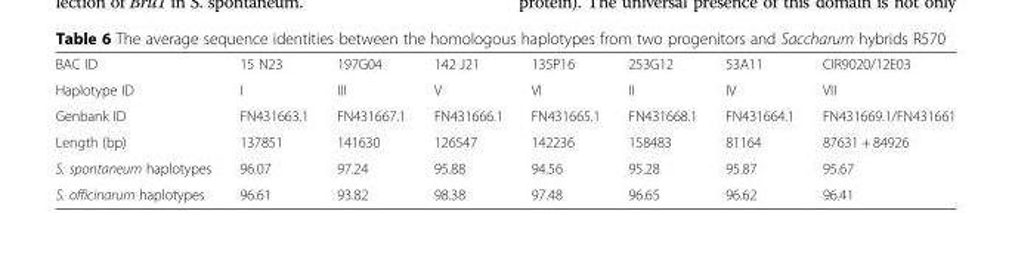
<table><tbody><tr><td>BAC ID</td><td>15 N23</td><td>197G04</td><td>142 J21</td><td>135P16</td><td>253G12</td><td>53A11</td><td>CIR9020/12E03</td></tr><tr><td>Haplotype ID</td><td>I</td><td>III</td><td>V</td><td>VI</td><td>II</td><td>IV</td><td>VII</td></tr><tr><td>Genbank ID</td><td>FN431663.1</td><td>FN431667.1</td><td>FN431666.1</td><td>FN431665.1</td><td>FN431668.1</td><td>FN431664.1</td><td>FN431669.1/FN431661</td></tr><tr><td>Length (bp)</td><td>137851</td><td>141630</td><td>126547</td><td>142236</td><td>158483</td><td>81164</td><td>87631 + 84926</td></tr><tr><td>S. spontaneum haplotypes</td><td>96.07</td><td>97.24</td><td>95.88</td><td>94.56</td><td>95.28</td><td>95.87</td><td>95.67</td></tr><tr><td>S. officinarum haplotypes</td><td>96.61</td><td>93.82</td><td>98.38</td><td>97.48</td><td>96.65</td><td>96.62</td><td>96.41</td></tr></tbody></table>